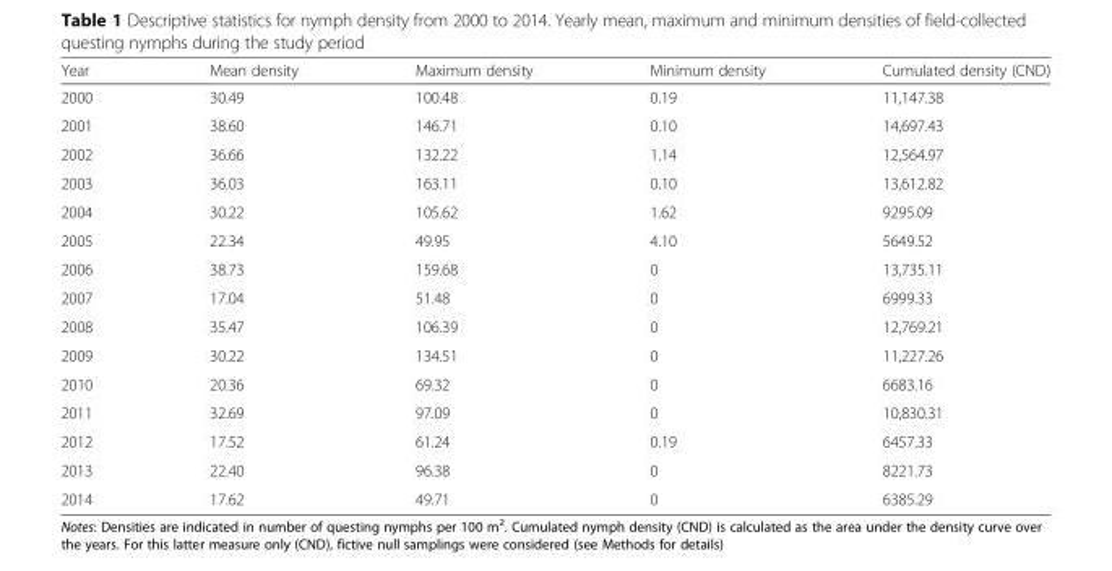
<table><thead><tr><td>Year</td><td>Mean density</td><td>Maximum density</td><td>Minimum density</td><td>Cumulated density (CND)</td></tr></thead><tbody><tr><td>2000</td><td>30.49</td><td>100.48</td><td>0.19</td><td>11,147.38</td></tr><tr><td>2001</td><td>38.60</td><td>146.71</td><td>0.10</td><td>14,697.43</td></tr><tr><td>2002</td><td>36.66</td><td>132.22</td><td>1.14</td><td>12,564.97</td></tr><tr><td>2003</td><td>36.03</td><td>163.11</td><td>0.10</td><td>13,612.82</td></tr><tr><td>2004</td><td>30.22</td><td>105.62</td><td>1.62</td><td>9295.09</td></tr><tr><td>2005</td><td>22.34</td><td>49.95</td><td>4.10</td><td>5649.52</td></tr><tr><td>2006</td><td>38.73</td><td>159.68</td><td>0</td><td>13,735.11</td></tr><tr><td>2007</td><td>17.04</td><td>51.48</td><td>0</td><td>6999.33</td></tr><tr><td>2008</td><td>35.47</td><td>106.39</td><td>0</td><td>12,769.21</td></tr><tr><td>2009</td><td>30.22</td><td>134.51</td><td>0</td><td>11,227.26</td></tr><tr><td>2010</td><td>20.36</td><td>69.32</td><td>0</td><td>6683.16</td></tr><tr><td>2011</td><td>32.69</td><td>97.09</td><td>0</td><td>10,830.31</td></tr><tr><td>2012</td><td>17.52</td><td>61.24</td><td>0.19</td><td>6457.33</td></tr><tr><td>2013</td><td>22.40</td><td>96.38</td><td>0</td><td>8221.73</td></tr><tr><td>2014</td><td>17.62</td><td>49.71</td><td>0</td><td>6385.29</td></tr></tbody></table>